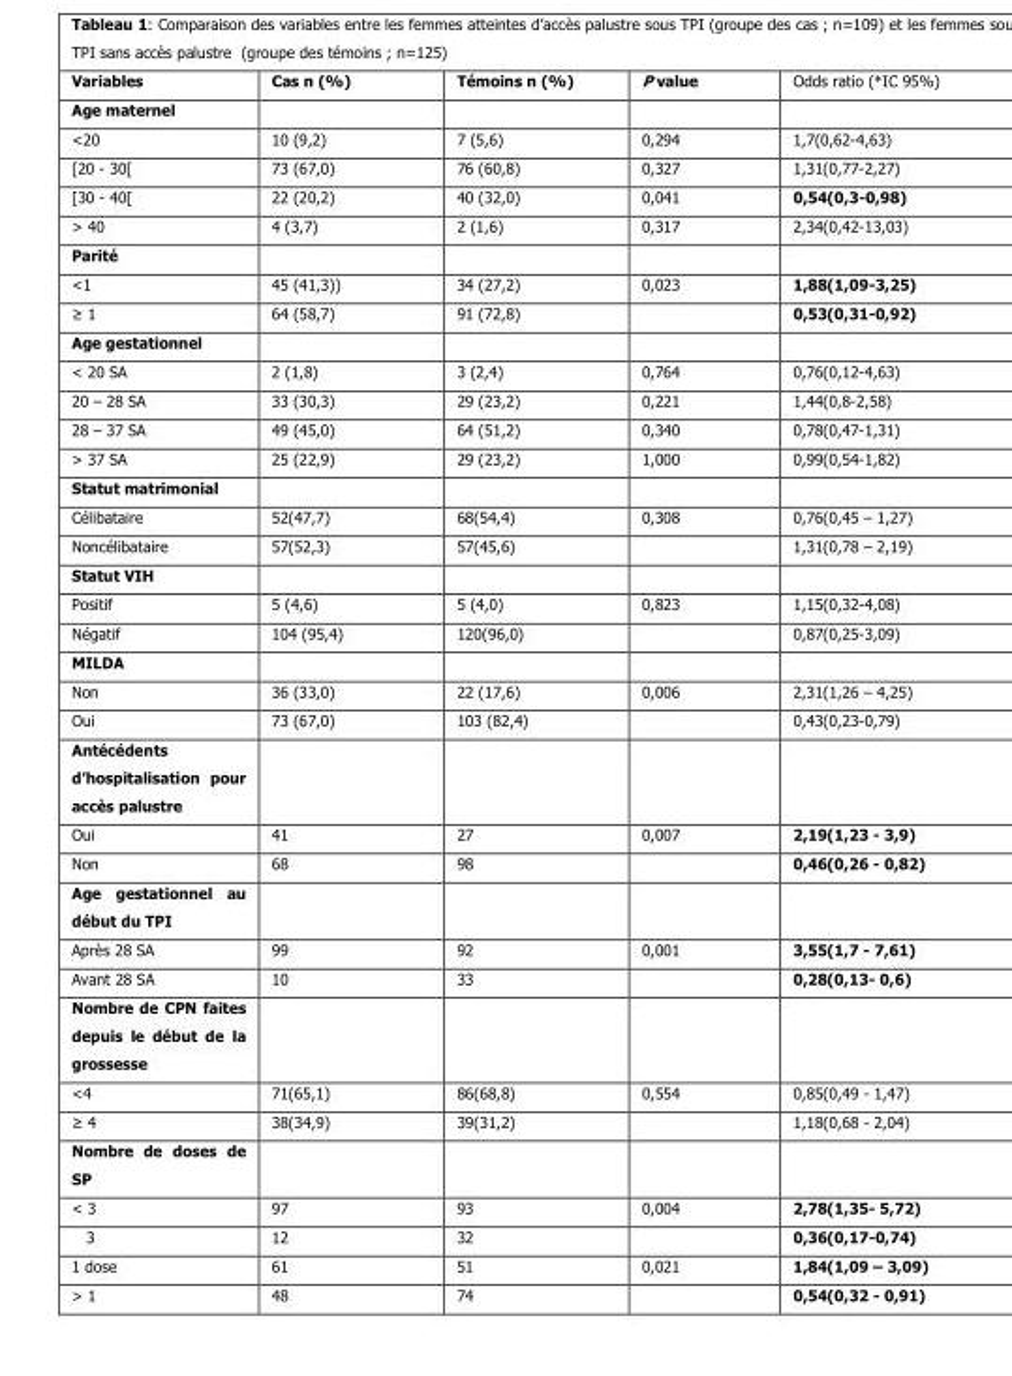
<table><thead><tr><td>Variables</td><td>Cas n (%)</td><td>Témoins n (%)</td><td>P value</td><td>Odds ratio (*IC 95%)</td></tr></thead><tbody><tr><td colspan="5">Age maternel</td></tr><tr><td>&lt;20</td><td>10 (9,2)</td><td>7 (5,6)</td><td>0,294</td><td>1,7(0,62-4,63)</td></tr><tr><td>[20 - 30[</td><td>73 (67,0)</td><td>76 (60,8)</td><td>0,327</td><td>1,31(0,77-2,27)</td></tr><tr><td>[30 - 40[</td><td>22 (20,2)</td><td>40 (32,0)</td><td>0,041</td><td>0,54(0,3-0,98)</td></tr><tr><td>˃ 40</td><td>4 (3,7)</td><td>2 (1,6)</td><td>0,317</td><td>2,34(0,42-13,03)</td></tr><tr><td colspan="5">Parité</td></tr><tr><td>&lt;1</td><td>45 (41,3))</td><td>34 (27,2)</td><td>0,023</td><td>1,88(1,09-3,25)</td></tr><tr><td>≥ 1</td><td>64 (58,7)</td><td>91 (72,8)</td><td></td><td>0,53(0,31-0,92)</td></tr><tr><td colspan="5">Age gestationnel</td></tr><tr><td>&lt; 20 SA</td><td>2 (1,8)</td><td>3 (2,4)</td><td>0,764</td><td>0,76(0,12-4,63)</td></tr><tr><td>20 – 28 SA</td><td>33 (30,3)</td><td>29 (23,2)</td><td>0,221</td><td>1,44(0,8-2,58)</td></tr><tr><td>28 – 37 SA</td><td>49 (45,0)</td><td>64 (51,2)</td><td>0,340</td><td>0,78(0,47-1,31)</td></tr><tr><td>˃ 37 SA</td><td>25 (22,9)</td><td>29 (23,2)</td><td>1,000</td><td>0,99(0,54-1,82)</td></tr><tr><td colspan="5">Statut matrimonial</td></tr><tr><td>Célibataire</td><td>52(47,7)</td><td>68(54,4)</td><td>0,308</td><td>0,76(0,45 – 1,27)</td></tr><tr><td>Noncélibataire</td><td>57(52,3)</td><td>57(45,6)</td><td></td><td>1,31(0,78 – 2,19)</td></tr><tr><td colspan="5">Statut VIH</td></tr><tr><td>Positif</td><td>5 (4,6)</td><td>5 (4,0)</td><td>0,823</td><td>1,15(0,32-4,08)</td></tr><tr><td>Négatif</td><td>104 (95,4)</td><td>120(96,0)</td><td></td><td>0,87(0,25-3,09)</td></tr><tr><td colspan="5">MILDA</td></tr><tr><td>Non</td><td>36 (33,0)</td><td>22 (17,6)</td><td>0,006</td><td>2,31(1,26 – 4,25)</td></tr><tr><td>Oui</td><td>73 (67,0)</td><td>103 (82,4)</td><td></td><td>0,43(0,23-0,79)</td></tr><tr><td colspan="5">Antécédents d’hospitalisation pour accès palustre</td></tr><tr><td>Oui</td><td>41</td><td>27</td><td>0,007</td><td>2,19(1,23 - 3,9)</td></tr><tr><td>Non</td><td>68</td><td>98</td><td></td><td>0,46(0,26 - 0,82)</td></tr><tr><td colspan="5">Age gestationnel au début du TPI</td></tr><tr><td>Après 28 SA</td><td>99</td><td>92</td><td>0,001</td><td>3,55(1,7 - 7,61)</td></tr><tr><td>Avant 28 SA</td><td>10</td><td>33</td><td></td><td>0,28(0,13- 0,6)</td></tr><tr><td colspan="5">Nombre de CPN faites depuis le début de la grossesse</td></tr><tr><td>˂4</td><td>71(65,1)</td><td>86(68,8)</td><td>0,554</td><td>0,85(0,49 - 1,47)</td></tr><tr><td>≥ 4</td><td>38(34,9)</td><td>39(31,2)</td><td></td><td>1,18(0,68 - 2,04)</td></tr><tr><td colspan="5">Nombre de doses de SP</td></tr><tr><td>˂ 3</td><td>97</td><td>93</td><td>0,004</td><td>2,78(1,35- 5,72)</td></tr><tr><td>3</td><td>12</td><td>32</td><td></td><td>0,36(0,17-0,74)</td></tr><tr><td>1 dose</td><td>61</td><td>51</td><td>0,021</td><td>1,84(1,09 – 3,09)</td></tr><tr><td>˃ 1</td><td>48</td><td>74</td><td></td><td>0,54(0,32 - 0,91)</td></tr></tbody></table>